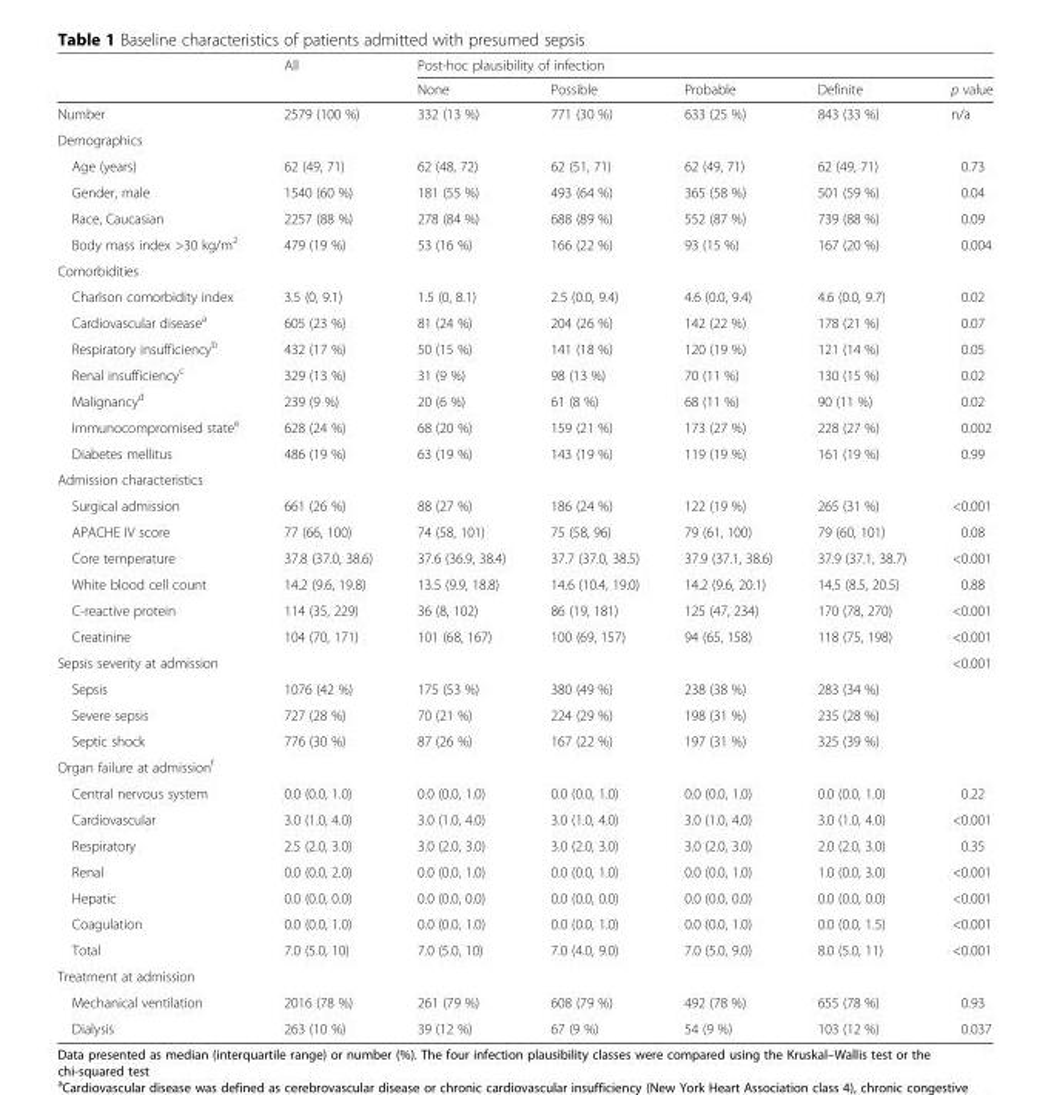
<table><thead><tr><td rowspan="2"></td><td rowspan="2">All</td><td colspan="5">Post-hoc plausibility of infection</td></tr><tr><td>None</td><td>Possible</td><td>Probable</td><td>Definite</td><td>p value</td></tr></thead><tbody><tr><td>Number</td><td>2579 (100 %)</td><td>332 (13 %)</td><td>771 (30 %)</td><td>633 (25 %)</td><td>843 (33 %)</td><td>n/a</td></tr><tr><td colspan="7">Demographics</td></tr><tr><td>Age (years)</td><td>62 (49, 71)</td><td>62 (48, 72)</td><td>62 (51, 71)</td><td>62 (49, 71)</td><td>62 (49, 71)</td><td>0.73</td></tr><tr><td>Gender, male</td><td>1540 (60 %)</td><td>181 (55 %)</td><td>493 (64 %)</td><td>365 (58 %)</td><td>501 (59 %)</td><td>0.04</td></tr><tr><td>Race, Caucasian</td><td>2257 (88 %)</td><td>278 (84 %)</td><td>688 (89 %)</td><td>552 (87 %)</td><td>739 (88 %)</td><td>0.09</td></tr><tr><td>Body mass index &gt;30 kg/m<sup>2</sup></td><td>479 (19 %)</td><td>53 (16 %)</td><td>166 (22 %)</td><td>93 (15 %)</td><td>167 (20 %)</td><td>0.004</td></tr><tr><td colspan="7">Comorbidities</td></tr><tr><td>Charlson comorbidity index</td><td>3.5 (0, 9.1)</td><td>1.5 (0, 8.1)</td><td>2.5 (0.0, 9.4)</td><td>4.6 (0.0, 9.4)</td><td>4.6 (0.0, 9.7)</td><td>0.02</td></tr><tr><td>Cardiovascular disease<sup>a</sup></td><td>605 (23 %)</td><td>81 (24 %)</td><td>204 (26 %)</td><td>142 (22 %)</td><td>178 (21 %)</td><td>0.07</td></tr><tr><td>Respiratory insufficiency<sup>b</sup></td><td>432 (17 %)</td><td>50 (15 %)</td><td>141 (18 %)</td><td>120 (19 %)</td><td>121 (14 %)</td><td>0.05</td></tr><tr><td>Renal insufficiency<sup>c</sup></td><td>329 (13 %)</td><td>31 (9 %)</td><td>98 (13 %)</td><td>70 (11 %)</td><td>130 (15 %)</td><td>0.02</td></tr><tr><td>Malignancy<sup>d</sup></td><td>239 (9 %)</td><td>20 (6 %)</td><td>61 (8 %)</td><td>68 (11 %)</td><td>90 (11 %)</td><td>0.02</td></tr><tr><td>Immunocompromised state<sup>e</sup></td><td>628 (24 %)</td><td>68 (20 %)</td><td>159 (21 %)</td><td>173 (27 %)</td><td>228 (27 %)</td><td>0.002</td></tr><tr><td>Diabetes mellitus</td><td>486 (19 %)</td><td>63 (19 %)</td><td>143 (19 %)</td><td>119 (19 %)</td><td>161 (19 %)</td><td>0.99</td></tr><tr><td colspan="7">Admission characteristics</td></tr><tr><td>Surgical admission</td><td>661 (26 %)</td><td>88 (27 %)</td><td>186 (24 %)</td><td>122 (19 %)</td><td>265 (31 %)</td><td>&lt;0.001</td></tr><tr><td>APACHE IV score</td><td>77 (66, 100)</td><td>74 (58, 101)</td><td>75 (58, 96)</td><td>79 (61, 100)</td><td>79 (60, 101)</td><td>0.08</td></tr><tr><td>Core temperature</td><td>37.8 (37.0, 38.6)</td><td>37.6 (36.9, 38.4)</td><td>37.7 (37.0, 38.5)</td><td>37.9 (37.1, 38.6)</td><td>37.9 (37.1, 38.7)</td><td>&lt;0.001</td></tr><tr><td>White blood cell count</td><td>14.2 (9.6, 19.8)</td><td>13.5 (9.9, 18.8)</td><td>14.6 (10.4, 19.0)</td><td>14.2 (9.6, 20.1)</td><td>14.5 (8.5, 20.5)</td><td>0.88</td></tr><tr><td>C-reactive protein</td><td>114 (35, 229)</td><td>36 (8, 102)</td><td>86 (19, 181)</td><td>125 (47, 234)</td><td>170 (78, 270)</td><td>&lt;0.001</td></tr><tr><td>Creatinine</td><td>104 (70, 171)</td><td>101 (68, 167)</td><td>100 (69, 157)</td><td>94 (65, 158)</td><td>118 (75, 198)</td><td>&lt;0.001</td></tr><tr><td>Sepsis severity at admission</td><td></td><td></td><td></td><td></td><td></td><td>&lt;0.001</td></tr><tr><td>Sepsis</td><td>1076 (42 %)</td><td>175 (53 %)</td><td>380 (49 %)</td><td>238 (38 %)</td><td>283 (34 %)</td><td></td></tr><tr><td>Severe sepsis</td><td>727 (28 %)</td><td>70 (21 %)</td><td>224 (29 %)</td><td>198 (31 %)</td><td>235 (28 %)</td><td></td></tr><tr><td>Septic shock</td><td>776 (30 %)</td><td>87 (26 %)</td><td>167 (22 %)</td><td>197 (31 %)</td><td>325 (39 %)</td><td></td></tr><tr><td colspan="7">Organ failure at admission<sup>f</sup></td></tr><tr><td>Central nervous system</td><td>0.0 (0.0, 1.0)</td><td>0.0 (0.0, 1.0)</td><td>0.0 (0.0, 1.0)</td><td>0.0 (0.0, 1.0)</td><td>0.0 (0.0, 1.0)</td><td>0.22</td></tr><tr><td>Cardiovascular</td><td>3.0 (1.0, 4.0)</td><td>3.0 (1.0, 4.0)</td><td>3.0 (1.0, 4.0)</td><td>3.0 (1.0, 4.0)</td><td>3.0 (1.0, 4.0)</td><td>&lt;0.001</td></tr><tr><td>Respiratory</td><td>2.5 (2.0, 3.0)</td><td>3.0 (2.0, 3.0)</td><td>3.0 (2.0, 3.0)</td><td>3.0 (2.0, 3.0)</td><td>2.0 (2.0, 3.0)</td><td>0.35</td></tr><tr><td>Renal</td><td>0.0 (0.0, 2.0)</td><td>0.0 (0.0, 1.0)</td><td>0.0 (0.0, 1.0)</td><td>0.0 (0.0, 1.0)</td><td>1.0 (0.0, 3.0)</td><td>&lt;0.001</td></tr><tr><td>Hepatic</td><td>0.0 (0.0, 0.0)</td><td>0.0 (0.0, 0.0)</td><td>0.0 (0.0, 0.0)</td><td>0.0 (0.0, 0.0)</td><td>0.0 (0.0, 0.0)</td><td>&lt;0.001</td></tr><tr><td>Coagulation</td><td>0.0 (0.0, 1.0)</td><td>0.0 (0.0, 1.0)</td><td>0.0 (0.0, 1.0)</td><td>0.0 (0.0, 1.0)</td><td>0.0 (0.0, 1.5)</td><td>&lt;0.001</td></tr><tr><td>Total</td><td>7.0 (5.0, 10)</td><td>7.0 (5.0, 10)</td><td>7.0 (4.0, 9.0)</td><td>7.0 (5.0, 9.0)</td><td>8.0 (5.0, 11)</td><td>&lt;0.001</td></tr><tr><td colspan="7">Treatment at admission</td></tr><tr><td>Mechanical ventilation</td><td>2016 (78 %)</td><td>261 (79 %)</td><td>608 (79 %)</td><td>492 (78 %)</td><td>655 (78 %)</td><td>0.93</td></tr><tr><td>Dialysis</td><td>263 (10 %)</td><td>39 (12 %)</td><td>67 (9 %)</td><td>54 (9 %)</td><td>103 (12 %)</td><td>0.037</td></tr></tbody></table>